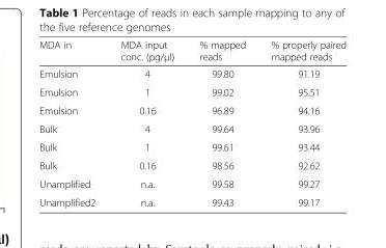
<table><thead><tr><td>MDA in</td><td>MDA input conc. (pg/μl)</td><td>% mapped reads</td><td>% properly paired mapped reads</td></tr></thead><tbody><tr><td>Emulsion</td><td>4</td><td>99.80</td><td>91.19</td></tr><tr><td>Emulsion</td><td>1</td><td>99.02</td><td>95.51</td></tr><tr><td>Emulsion</td><td>0.16</td><td>96.89</td><td>94.16</td></tr><tr><td>Bulk</td><td>4</td><td>99.64</td><td>93.96</td></tr><tr><td>Bulk</td><td>1</td><td>99.61</td><td>93.44</td></tr><tr><td>Bulk</td><td>0.16</td><td>98.56</td><td>92.62</td></tr><tr><td>Unamplified</td><td>n.a.</td><td>99.58</td><td>99.27</td></tr><tr><td>Unamplified2</td><td>n.a.</td><td>99.43</td><td>99.17</td></tr></tbody></table>